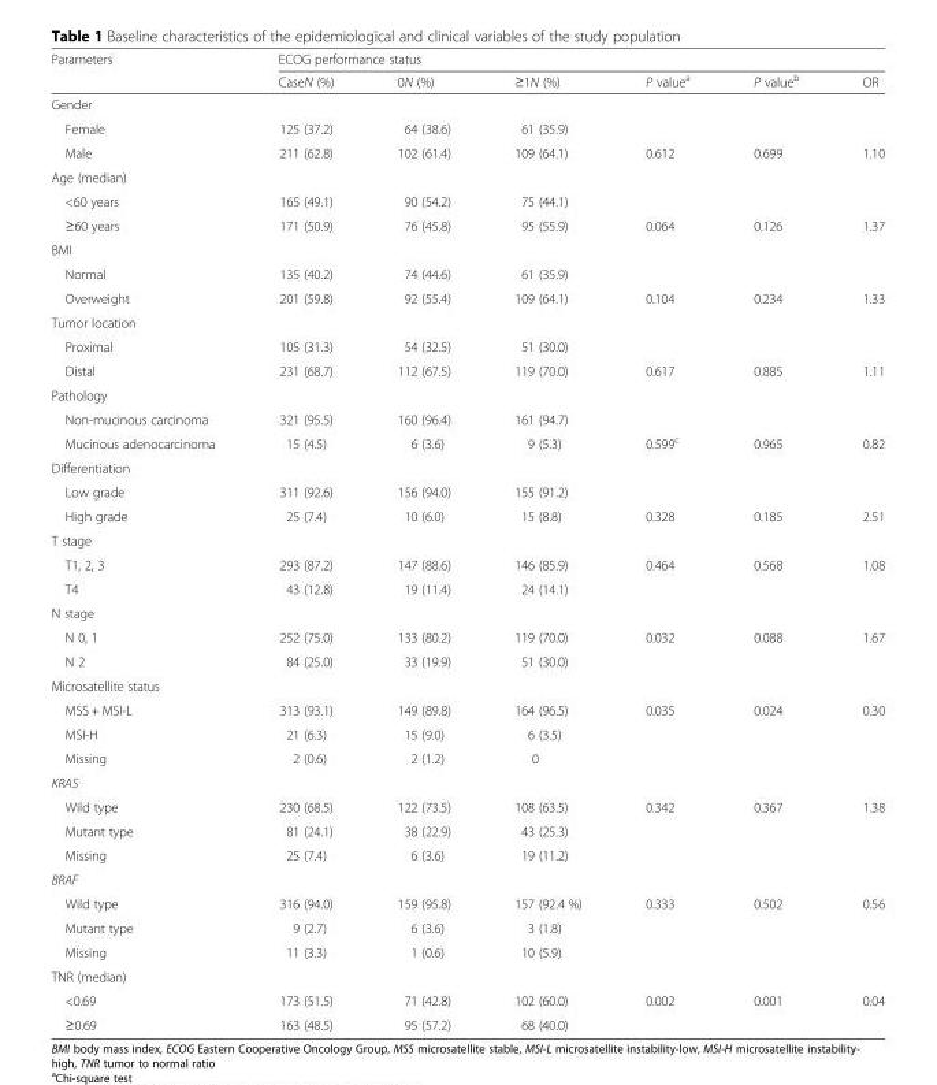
<table><thead><tr><td rowspan="2">Parameters</td><td colspan="6">ECOG performance status</td></tr><tr><td>CaseN (%)</td><td>0N (%)</td><td>≥1N (%)</td><td>P value<sup>a</sup></td><td>P value<sup>b</sup></td><td>OR</td></tr></thead><tbody><tr><td colspan="7">Gender</td></tr><tr><td>Female</td><td>125 (37.2)</td><td>64 (38.6)</td><td>61 (35.9)</td><td></td><td></td><td></td></tr><tr><td>Male</td><td>211 (62.8)</td><td>102 (61.4)</td><td>109 (64.1)</td><td>0.612</td><td>0.699</td><td>1.10</td></tr><tr><td colspan="7">Age (median)</td></tr><tr><td>&lt;60 years</td><td>165 (49.1)</td><td>90 (54.2)</td><td>75 (44.1)</td><td></td><td></td><td></td></tr><tr><td>≥60 years</td><td>171 (50.9)</td><td>76 (45.8)</td><td>95 (55.9)</td><td>0.064</td><td>0.126</td><td>1.37</td></tr><tr><td colspan="7">BMI</td></tr><tr><td>Normal</td><td>135 (40.2)</td><td>74 (44.6)</td><td>61 (35.9)</td><td></td><td></td><td></td></tr><tr><td>Overweight</td><td>201 (59.8)</td><td>92 (55.4)</td><td>109 (64.1)</td><td>0.104</td><td>0.234</td><td>1.33</td></tr><tr><td colspan="7">Tumor location</td></tr><tr><td>Proximal</td><td>105 (31.3)</td><td>54 (32.5)</td><td>51 (30.0)</td><td></td><td></td><td></td></tr><tr><td>Distal</td><td>231 (68.7)</td><td>112 (67.5)</td><td>119 (70.0)</td><td>0.617</td><td>0.885</td><td>1.11</td></tr><tr><td colspan="7">Pathology</td></tr><tr><td>Non-mucinous carcinoma</td><td>321 (95.5)</td><td>160 (96.4)</td><td>161 (94.7)</td><td></td><td></td><td></td></tr><tr><td>Mucinous adenocarcinoma</td><td>15 (4.5)</td><td>6 (3.6)</td><td>9 (5.3)</td><td>0.599<sup>c</sup></td><td>0.965</td><td>0.82</td></tr><tr><td colspan="7">Differentiation</td></tr><tr><td>Low grade</td><td>311 (92.6)</td><td>156 (94.0)</td><td>155 (91.2)</td><td></td><td></td><td></td></tr><tr><td>High grade</td><td>25 (7.4)</td><td>10 (6.0)</td><td>15 (8.8)</td><td>0.328</td><td>0.185</td><td>2.51</td></tr><tr><td colspan="7">T stage</td></tr><tr><td>T1, 2, 3</td><td>293 (87.2)</td><td>147 (88.6)</td><td>146 (85.9)</td><td>0.464</td><td>0.568</td><td>1.08</td></tr><tr><td>T4</td><td>43 (12.8)</td><td>19 (11.4)</td><td>24 (14.1)</td><td></td><td></td><td></td></tr><tr><td colspan="7">N stage</td></tr><tr><td>N 0, 1</td><td>252 (75.0)</td><td>133 (80.2)</td><td>119 (70.0)</td><td>0.032</td><td>0.088</td><td>1.67</td></tr><tr><td>N 2</td><td>84 (25.0)</td><td>33 (19.9)</td><td>51 (30.0)</td><td></td><td></td><td></td></tr><tr><td colspan="7">Microsatellite status</td></tr><tr><td>MSS + MSI-L</td><td>313 (93.1)</td><td>149 (89.8)</td><td>164 (96.5)</td><td>0.035</td><td>0.024</td><td>0.30</td></tr><tr><td>MSI-H</td><td>21 (6.3)</td><td>15 (9.0)</td><td>6 (3.5)</td><td></td><td></td><td></td></tr><tr><td>Missing</td><td>2 (0.6)</td><td>2 (1.2)</td><td>0</td><td></td><td></td><td></td></tr><tr><td colspan="7">KRAS</td></tr><tr><td>Wild type</td><td>230 (68.5)</td><td>122 (73.5)</td><td>108 (63.5)</td><td>0.342</td><td>0.367</td><td>1.38</td></tr><tr><td>Mutant type</td><td>81 (24.1)</td><td>38 (22.9)</td><td>43 (25.3)</td><td></td><td></td><td></td></tr><tr><td>Missing</td><td>25 (7.4)</td><td>6 (3.6)</td><td>19 (11.2)</td><td></td><td></td><td></td></tr><tr><td colspan="7">BRAF</td></tr><tr><td>Wild type</td><td>316 (94.0)</td><td>159 (95.8)</td><td>157 (92.4 %)</td><td>0.333</td><td>0.502</td><td>0.56</td></tr><tr><td>Mutant type</td><td>9 (2.7)</td><td>6 (3.6)</td><td>3 (1.8)</td><td></td><td></td><td></td></tr><tr><td>Missing</td><td>11 (3.3)</td><td>1 (0.6)</td><td>10 (5.9)</td><td></td><td></td><td></td></tr><tr><td colspan="7">TNR (median)</td></tr><tr><td>&lt;0.69</td><td>173 (51.5)</td><td>71 (42.8)</td><td>102 (60.0)</td><td>0.002</td><td>0.001</td><td>0.04</td></tr><tr><td>≥0.69</td><td>163 (48.5)</td><td>95 (57.2)</td><td>68 (40.0)</td><td></td><td></td><td></td></tr></tbody></table>